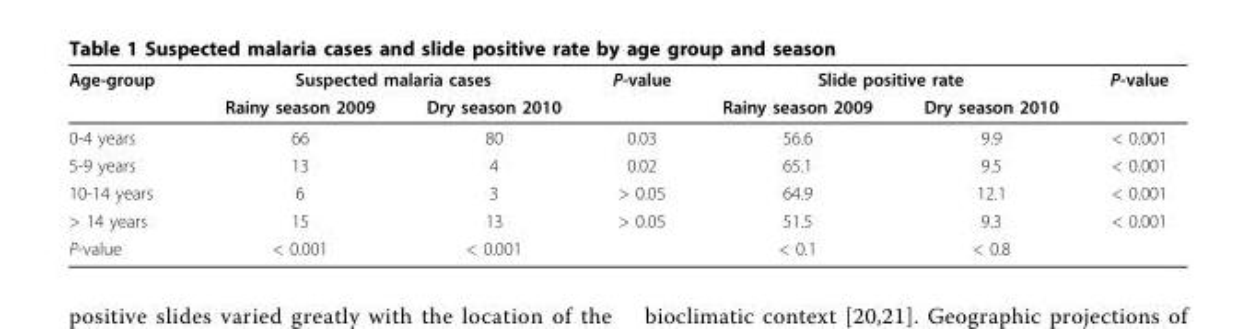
<table><thead><tr><td rowspan="2">Age-group</td><td colspan="2">Suspected malaria cases</td><td rowspan="2">P-value</td><td colspan="2">Slide positive rate</td><td rowspan="2">P-value</td></tr><tr><td>Rainy season 2009</td><td>Dry season 2010</td><td>Rainy season 2009</td><td>Dry season 2010</td></tr></thead><tbody><tr><td>0-4 years</td><td>66</td><td>80</td><td>0.03</td><td>56.6</td><td>9.9</td><td>&lt; 0.001</td></tr><tr><td>5-9 years</td><td>13</td><td>4</td><td>0.02</td><td>65.1</td><td>9.5</td><td>&lt; 0.001</td></tr><tr><td>10-14 years</td><td>6</td><td>3</td><td>&gt; 0.05</td><td>64.9</td><td>12.1</td><td>&lt; 0.001</td></tr><tr><td>&gt; 14 years</td><td>15</td><td>13</td><td>&gt; 0.05</td><td>51.5</td><td>9.3</td><td>&lt; 0.001</td></tr><tr><td>P-value</td><td>&lt; 0.001</td><td>&lt; 0.001</td><td></td><td>&lt; 0.1</td><td>&lt; 0.8</td><td></td></tr></tbody></table>